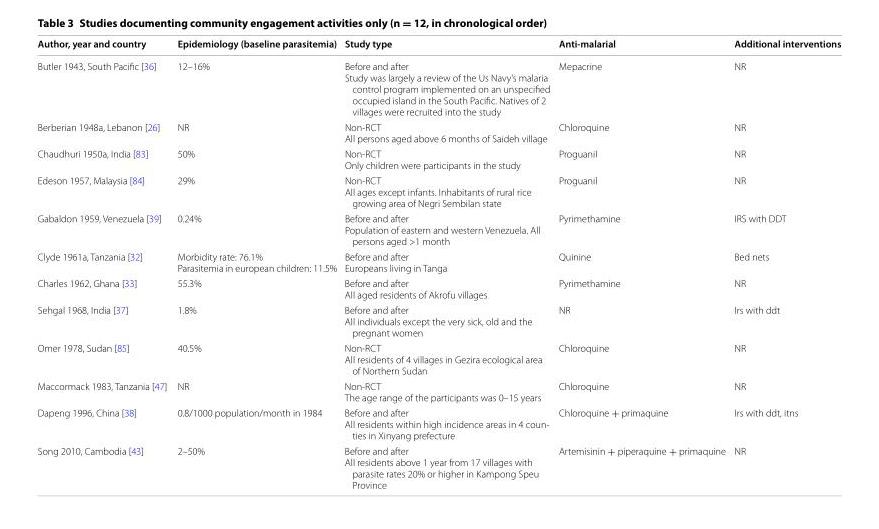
<table><thead><tr><td>Author, year and country</td><td>Epidemiology (baseline parasitemia)</td><td>Study type</td><td>Anti-malarial</td><td>Additional interventions</td></tr></thead><tbody><tr><td>Butler 1943, South Pacific [36]</td><td>12–16%</td><td>Before and after Study was largely a review of the Us Navy’s malaria control program implemented on an unspecified occupied island in the South Pacific. Natives of 2 villages were recruited into the study</td><td>Mepacrine</td><td>NR</td></tr><tr><td>Berberian 1948a, Lebanon [26]</td><td>NR</td><td>Non-RCT All persons aged above 6 months of Saideh village</td><td>Chloroquine</td><td>NR</td></tr><tr><td>Chaudhuri 1950a, India [83]</td><td>50%</td><td>Non-RCT Only children were participants in the study</td><td>Proguanil</td><td>NR</td></tr><tr><td>Edeson 1957, Malaysia [84]</td><td>29%</td><td>Non-RCT All ages except infants. Inhabitants of rural rice growing area of Negri Sembilan state</td><td>Proguanil</td><td>NR</td></tr><tr><td>Gabaldon 1959, Venezuela [39]</td><td>0.24%</td><td>Before and after Population of eastern and western Venezuela. All persons aged &gt;1 month</td><td>Pyrimethamine</td><td>IRS with DDT</td></tr><tr><td>Clyde 1961a, Tanzania [32]</td><td>Morbidity rate: 76.1% Parasitemia in european children: 11.5%</td><td>Before and after Europeans living in Tanga</td><td>Quinine</td><td>Bed nets</td></tr><tr><td>Charles 1962, Ghana [33]</td><td>55.3%</td><td>Before and after All aged residents of Akrofu villages</td><td>Pyrimethamine</td><td>NR</td></tr><tr><td>Sehgal 1968, India [37]</td><td>1.8%</td><td>Before and after All individuals except the very sick, old and the pregnant women</td><td>NR</td><td>Irs with ddt</td></tr><tr><td>Omer 1978, Sudan [85]</td><td>40.5%</td><td>Non-RCT All residents of 4 villages in Gezira ecological area of Northern Sudan</td><td>Chloroquine</td><td>NR</td></tr><tr><td>Maccormack 1983, Tanzania [47]</td><td>NR</td><td>Non-RCT The age range of the participants was 0–15 years</td><td>Chloroquine</td><td>NR</td></tr><tr><td>Dapeng 1996, China [38]</td><td>0.8/1000 population/month in 1984</td><td>Before and after All residents within high incidence areas in 4 coun- ties in Xinyang prefecture</td><td>Chloroquine + primaquine</td><td>Irs with ddt, itns</td></tr><tr><td>Song 2010, Cambodia [43]</td><td>2–50%</td><td>Before and after All residents above 1 year from 17 villages with parasite rates 20% or higher in Kampong Speu Province</td><td>Artemisinin + piperaquine + primaquine</td><td>NR</td></tr></tbody></table>